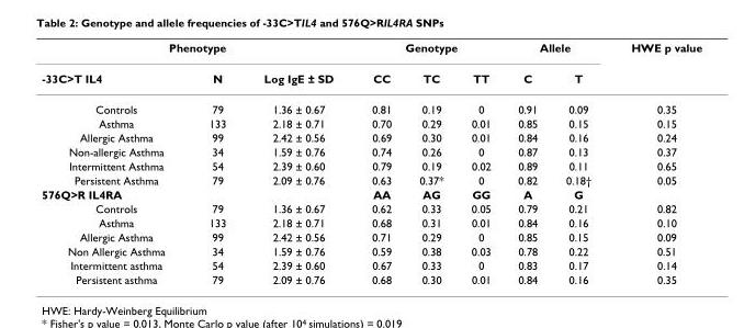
<table><thead><tr><td colspan="3">Phenotype</td><td colspan="3">Genotype</td><td colspan="2">Allele</td><td rowspan="2">HWE p value</td></tr><tr><td>-33C&gt;T IL4</td><td>N</td><td>Log IgE ± SD</td><td>CC</td><td>TC</td><td>TT</td><td>C</td><td>T</td></tr></thead><tbody><tr><td>Controls</td><td>79</td><td>1.36 ± 0.67</td><td>0.81</td><td>0.19</td><td>0</td><td>0.91</td><td>0.09</td><td>0.35</td></tr><tr><td>Asthma</td><td>133</td><td>2.18 ± 0.71</td><td>0.70</td><td>0.29</td><td>0.01</td><td>0.85</td><td>0.15</td><td>0.15</td></tr><tr><td>Allergic Asthma</td><td>99</td><td>2.42 ± 0.56</td><td>0.69</td><td>0.30</td><td>0.01</td><td>0.84</td><td>0.16</td><td>0.24</td></tr><tr><td>Non-allergic Asthma</td><td>34</td><td>1.59 ± 0.76</td><td>0.74</td><td>0.26</td><td>0</td><td>0.87</td><td>0.13</td><td>0.37</td></tr><tr><td>Intermittent Asthma</td><td>54</td><td>2.39 ± 0.60</td><td>0.79</td><td>0.19</td><td>0.02</td><td>0.89</td><td>0.11</td><td>0.65</td></tr><tr><td>Persistent Asthma</td><td>79</td><td>2.09 ± 0.76</td><td>0.63</td><td>0.37*</td><td>0</td><td>0.82</td><td>0.18†</td><td>0.05</td></tr><tr><td>576Q&gt;R IL4RA</td><td></td><td></td><td>AA</td><td>AG</td><td>GG</td><td>A</td><td>G</td><td></td></tr><tr><td>Controls</td><td>79</td><td>1.36 ± 0.67</td><td>0.62</td><td>0.33</td><td>0.05</td><td>0.79</td><td>0.21</td><td>0.82</td></tr><tr><td>Asthma</td><td>133</td><td>2.18 ± 0.71</td><td>0.68</td><td>0.31</td><td>0.01</td><td>0.84</td><td>0.16</td><td>0.10</td></tr><tr><td>Allergic Asthma</td><td>99</td><td>2.42 ± 0.56</td><td>0.71</td><td>0.29</td><td>0</td><td>0.85</td><td>0.15</td><td>0.09</td></tr><tr><td>Non Allergic Asthma</td><td>34</td><td>1.59 ± 0.76</td><td>0.59</td><td>0.38</td><td>0.03</td><td>0.78</td><td>0.22</td><td>0.51</td></tr><tr><td>Intermittent asthma</td><td>54</td><td>2.39 ± 0.60</td><td>0.67</td><td>0.33</td><td>0</td><td>0.83</td><td>0.17</td><td>0.14</td></tr><tr><td>Persistent asthma</td><td>79</td><td>2.09 ± 0.76</td><td>0.68</td><td>0.30</td><td>0.01</td><td>0.84</td><td>0.16</td><td>0.35</td></tr></tbody></table>